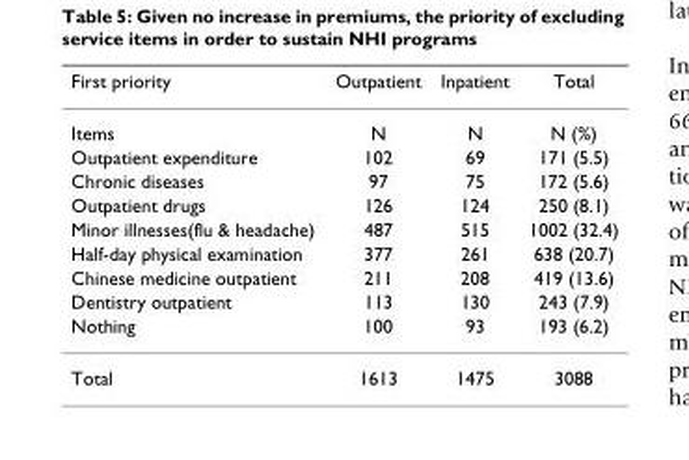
<table><thead><tr><td>First priority</td><td>Outpatient</td><td>Inpatient</td><td>Total</td></tr></thead><tbody><tr><td>Items</td><td>N</td><td>N</td><td>N (%)</td></tr><tr><td>Outpatient expenditure</td><td>102</td><td>69</td><td>171 (5.5)</td></tr><tr><td>Chronic diseases</td><td>97</td><td>75</td><td>172 (5.6)</td></tr><tr><td>Outpatient drugs</td><td>126</td><td>124</td><td>250 (8.1)</td></tr><tr><td>Minor illnesses(flu &amp; headache)</td><td>487</td><td>515</td><td>1002 (32.4)</td></tr><tr><td>Half-day physical examination</td><td>377</td><td>261</td><td>638 (20.7)</td></tr><tr><td>Chinese medicine outpatient</td><td>211</td><td>208</td><td>419 (13.6)</td></tr><tr><td>Dentistry outpatient</td><td>113</td><td>130</td><td>243 (7.9)</td></tr><tr><td>Nothing</td><td>100</td><td>93</td><td>193 (6.2)</td></tr><tr><td>Total</td><td>1613</td><td>1475</td><td>3088</td></tr></tbody></table>